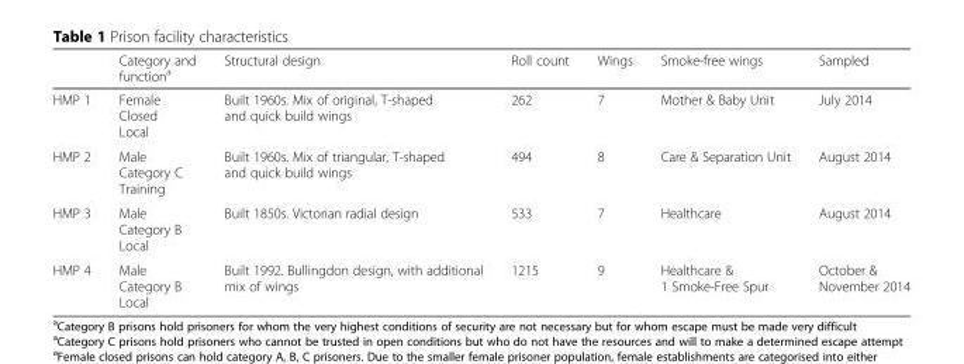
<table><thead><tr><td></td><td>Category and function<sup>a</sup></td><td>Structural design</td><td>Roll count</td><td>Wings</td><td>Smoke-free wings</td><td>Sampled</td></tr></thead><tbody><tr><td>HMP 1</td><td>Female Closed Local</td><td>Built 1960s. Mix of original, T-shaped and quick build wings</td><td>262</td><td>7</td><td>Mother &amp; Baby Unit</td><td>July 2014</td></tr><tr><td>HMP 2</td><td>Male Category C Training</td><td>Built 1960s. Mix of triangular, T-shaped and quick build wings</td><td>494</td><td>8</td><td>Care &amp; Separation Unit</td><td>August 2014</td></tr><tr><td>HMP 3</td><td>Male Category B Local</td><td>Built 1850s. Victorian radial design</td><td>533</td><td>7</td><td>Healthcare</td><td>August 2014</td></tr><tr><td>HMP 4</td><td>Male Category B Local</td><td>Built 1992. Bullingdon design, with additional mix of wings</td><td>1215</td><td>9</td><td>Healthcare &amp; 1 Smoke-Free Spur</td><td>October &amp; November 2014</td></tr></tbody></table>